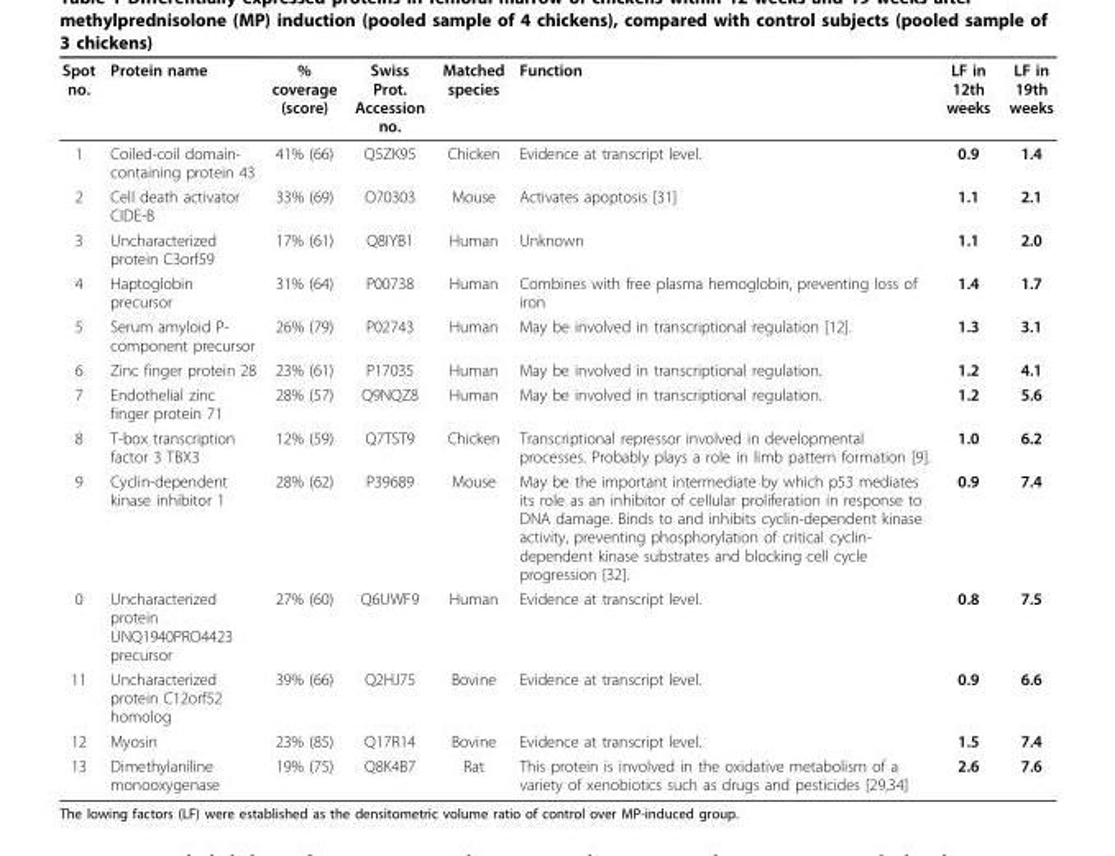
<table><thead><tr><td>Spot no.</td><td>Protein name</td><td>% coverage (score)</td><td>Swiss Prot. Accession no.</td><td>Matched species</td><td>Function</td><td>LF in 12th weeks</td><td>LF in 19th weeks</td></tr></thead><tbody><tr><td>1</td><td>Coiled-coil domain- containing protein 43</td><td>41% (66)</td><td>Q5ZK95</td><td>Chicken</td><td>Evidence at transcript level.</td><td>0.9</td><td>1.4</td></tr><tr><td>2</td><td>Cell death activator CIDE-B</td><td>33% (69)</td><td>O70303</td><td>Mouse</td><td>Activates apoptosis [31]</td><td>1.1</td><td>2.1</td></tr><tr><td>3</td><td>Uncharacterized protein C3orf59</td><td>17% (61)</td><td>Q8IYB1</td><td>Human</td><td>Unknown</td><td>1.1</td><td>2.0</td></tr><tr><td>4</td><td>Haptoglobin precursor</td><td>31% (64)</td><td>P00738</td><td>Human</td><td>Combines with free plasma hemoglobin, preventing loss of iron</td><td>1.4</td><td>1.7</td></tr><tr><td>5</td><td>Serum amyloid P- component precursor</td><td>26% (79)</td><td>P02743</td><td>Human</td><td>May be involved in transcriptional regulation [12].</td><td>1.3</td><td>3.1</td></tr><tr><td>6</td><td>Zinc finger protein 28</td><td>23% (61)</td><td>P17035</td><td>Human</td><td>May be involved in transcriptional regulation.</td><td>1.2</td><td>4.1</td></tr><tr><td>7</td><td>Endothelial zinc finger protein 71</td><td>28% (57)</td><td>Q9NQZ8</td><td>Human</td><td>May be involved in transcriptional regulation.</td><td>1.2</td><td>5.6</td></tr><tr><td>8</td><td>T-box transcription factor 3 TBX3</td><td>12% (59)</td><td>Q7TST9</td><td>Chicken</td><td>Transcriptional repressor involved in developmental processes. Probably plays a role in limb pattern formation [9].</td><td>1.0</td><td>6.2</td></tr><tr><td>9</td><td>Cyclin-dependent kinase inhibitor 1</td><td>28% (62)</td><td>P39689</td><td>Mouse</td><td>May be the important intermediate by which p53 mediates its role as an inhibitor of cellular proliferation in response to DNA damage. Binds to and inhibits cyclin-dependent kinase activity, preventing phosphorylation of critical cyclin- dependent kinase substrates and blocking cell cycle progression [32].</td><td>0.9</td><td>7.4</td></tr><tr><td>0</td><td>Uncharacterized protein UNQ1940PRO4423 precursor</td><td>27% (60)</td><td>Q6UWF9</td><td>Human</td><td>Evidence at transcript level.</td><td>0.8</td><td>7.5</td></tr><tr><td>11</td><td>Uncharacterized protein C12orf52 homolog</td><td>39% (66)</td><td>Q2HJ75</td><td>Bovine</td><td>Evidence at transcript level.</td><td>0.9</td><td>6.6</td></tr><tr><td>12</td><td>Myosin</td><td>23% (85)</td><td>Q17R14</td><td>Bovine</td><td>Evidence at transcript level.</td><td>1.5</td><td>7.4</td></tr><tr><td>13</td><td>Dimethylaniline monooxygenase</td><td>19% (75)</td><td>Q8K4B7</td><td>Rat</td><td>This protein is involved in the oxidative metabolism of a variety of xenobiotics such as drugs and pesticides [29,34]</td><td>2.6</td><td>7.6</td></tr></tbody></table>